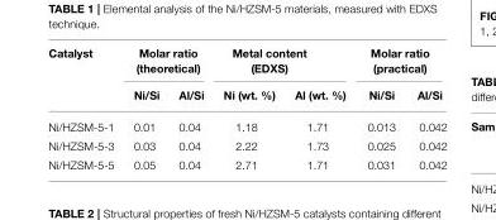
<table><thead><tr><td rowspan="2">Catalyst</td><td colspan="2">Molar ratio (theoretical)</td><td colspan="2">Metal content (EDXS)</td><td colspan="2">Molar ratio (practical)</td></tr><tr><td>Ni/Si</td><td>Al/Si</td><td>Ni (wt. %)</td><td>Al (wt. %)</td><td>Ni/Si</td><td>Al/Si</td></tr></thead><tbody><tr><td>Ni/HZSM-5-1</td><td>0.01</td><td>0.04</td><td>1.18</td><td>1.71</td><td>0.013</td><td>0.042</td></tr><tr><td>Ni/HZSM-5-3</td><td>0.03</td><td>0.04</td><td>2.22</td><td>1.73</td><td>0.025</td><td>0.042</td></tr><tr><td>Ni/HZSM-5-5</td><td>0.05</td><td>0.04</td><td>2.71</td><td>1.71</td><td>0.031</td><td>0.042</td></tr></tbody></table>